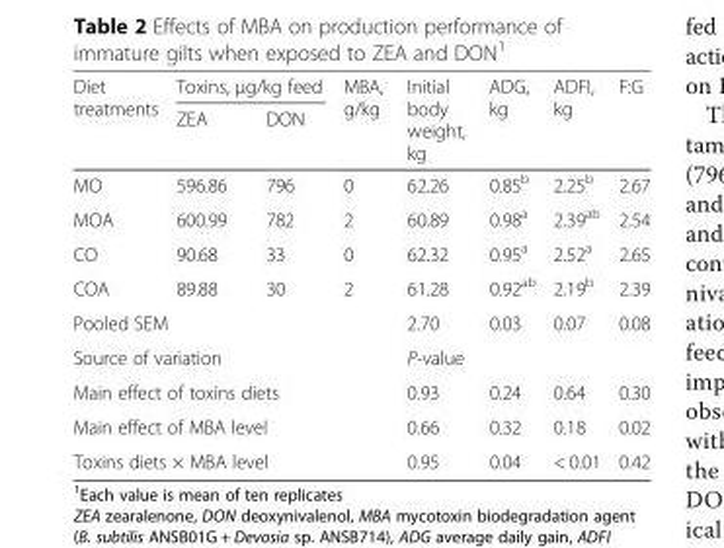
<table><thead><tr><td rowspan="2">Diet treatments</td><td colspan="2">Toxins, μg/kg feed</td><td rowspan="2">MBA, g/kg</td><td rowspan="2">Initial body weight, kg</td><td rowspan="2">ADG, kg</td><td rowspan="2">ADFI, kg</td><td rowspan="2">F:G</td></tr><tr><td>ZEA</td><td>DON</td></tr></thead><tbody><tr><td>MO</td><td>596.86</td><td>796</td><td>0</td><td>62.26</td><td>0.85<sup>b</sup></td><td>2.25<sup>b</sup></td><td>2.67</td></tr><tr><td>MOA</td><td>600.99</td><td>782</td><td>2</td><td>60.89</td><td>0.98<sup>a</sup></td><td>2.39<sup>ab</sup></td><td>2.54</td></tr><tr><td>CO</td><td>90.68</td><td>33</td><td>0</td><td>62.32</td><td>0.95<sup>a</sup></td><td>2.52<sup>a</sup></td><td>2.65</td></tr><tr><td>COA</td><td>89.88</td><td>30</td><td>2</td><td>61.28</td><td>0.92<sup>ab</sup></td><td>2.19<sup>b</sup></td><td>2.39</td></tr><tr><td colspan="4">Pooled SEM</td><td>2.70</td><td>0.03</td><td>0.07</td><td>0.08</td></tr><tr><td colspan="4">Source of variation</td><td colspan="4">P-value</td></tr><tr><td colspan="4">Main effect of toxins diets</td><td>0.93</td><td>0.24</td><td>0.64</td><td>0.30</td></tr><tr><td colspan="4">Main effect of MBA level</td><td>0.66</td><td>0.32</td><td>0.18</td><td>0.02</td></tr><tr><td colspan="4">Toxins diets × MBA level</td><td>0.95</td><td>0.04</td><td>&lt; 0.01</td><td>0.42</td></tr></tbody></table>